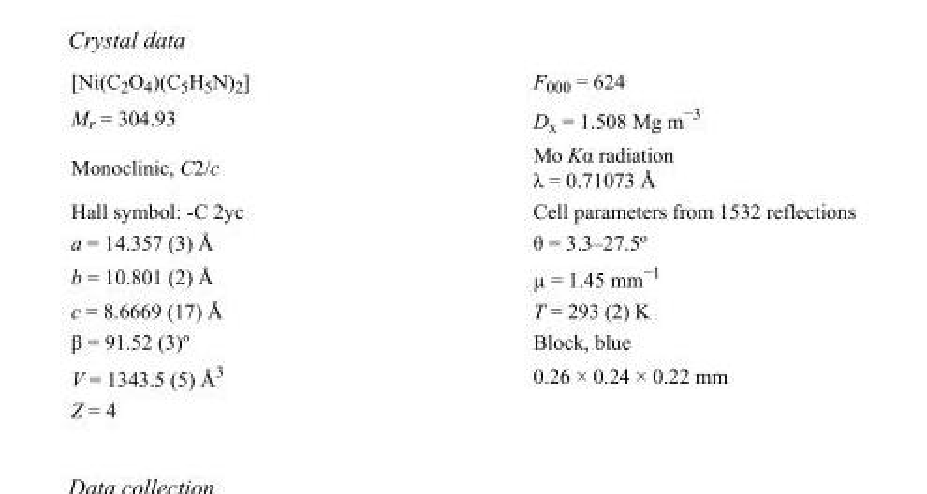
<table><tbody><tr><td>[Ni(C<sub>2</sub>O<sub>4</sub>)(C<sub>5</sub>H<sub>5</sub>N)<sub>2</sub>]</td><td>F<sub>000</sub> = 624</td></tr><tr><td>M<sub>r</sub> = 304.93</td><td>D<sub>x</sub> = 1.508 Mg m<sup>−3</sup></td></tr><tr><td>Monoclinic, C2/c</td><td>Mo Kα radiation λ = 0.71073 Å</td></tr><tr><td>Hall symbol: -C 2yc</td><td>Cell parameters from 1532 reflections</td></tr><tr><td>a = 14.357 (3) Å</td><td>θ = 3.3–27.5º</td></tr><tr><td>b = 10.801 (2) Å</td><td>µ = 1.45 mm<sup>−1</sup></td></tr><tr><td>c = 8.6669 (17) Å</td><td>T = 293 (2) K</td></tr><tr><td>β = 91.52 (3)º</td><td>Block, blue</td></tr><tr><td>V = 1343.5 (5) Å<sup>3</sup></td><td>0.26 × 0.24 × 0.22 mm</td></tr><tr><td>Z = 4</td><td></td></tr></tbody></table>